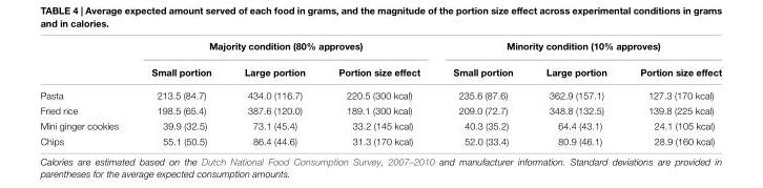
<table><thead><tr><td rowspan="2"></td><td colspan="3">Majority condition (80% approves)</td><td colspan="3">Minority condition (10% approves)</td></tr><tr><td>Small portion</td><td>Large portion</td><td>Portion size effect</td><td>Small portion</td><td>Large portion</td><td>Portion size effect</td></tr></thead><tbody><tr><td>Pasta</td><td>213.5 (84.7)</td><td>434.0 (116.7)</td><td>220.5 (300 kcal)</td><td>235.6 (87.6)</td><td>362.9 (157.1)</td><td>127.3 (170 kcal)</td></tr><tr><td>Fried rice</td><td>198.5 (65.4)</td><td>387.6 (120.0)</td><td>189.1 (300 kcal)</td><td>209.0 (72.7)</td><td>348.8 (132.5)</td><td>139.8 (225 kcal)</td></tr><tr><td>Mini ginger cookies</td><td>39.9 (32.5)</td><td>73.1 (45.4)</td><td>33.2 (145 kcal)</td><td>40.3 (35.2)</td><td>64.4 (43.1)</td><td>24.1 (105 kcal)</td></tr><tr><td>Chips</td><td>55.1 (50.5)</td><td>86.4 (44.6)</td><td>31.3 (170 kcal)</td><td>52.0 (33.4)</td><td>80.9 (46.1)</td><td>28.9 (160 kcal)</td></tr></tbody></table>